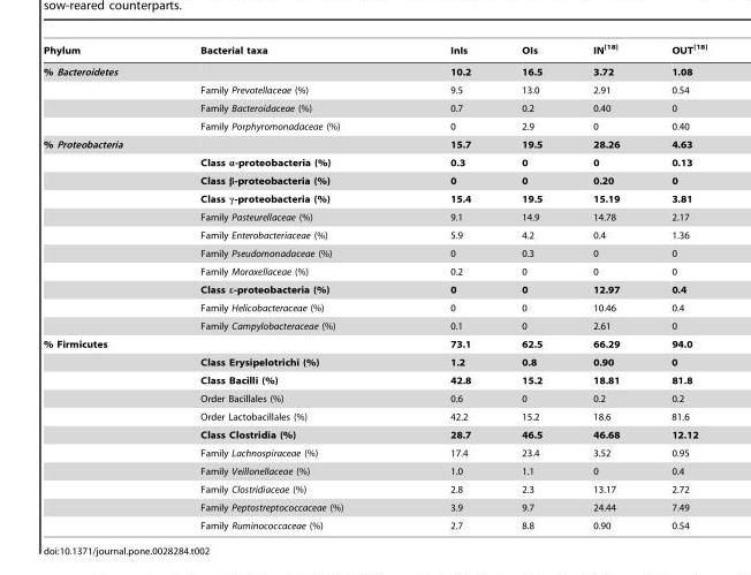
<table><thead><tr><td>Phylum</td><td>Bacterial taxa</td><td>InIs</td><td>OIs</td><td>IN<sup>[18]</sup></td><td>OUT<sup>[18]</sup></td></tr></thead><tbody><tr><td rowspan="4">% Bacteroidetes</td><td></td><td>10.2</td><td>16.5</td><td>3.72</td><td>1.08</td></tr><tr><td>Family Prevotellaceae (%)</td><td>9.5</td><td>13.0</td><td>2.91</td><td>0.54</td></tr><tr><td>Family Bacteroidaceae (%)</td><td>0.7</td><td>0.2</td><td>0.40</td><td>0</td></tr><tr><td>Family Porphyromonadaceae (%)</td><td>0</td><td>2.9</td><td>0</td><td>0.40</td></tr><tr><td rowspan="11">% Proteobacteria</td><td></td><td>15.7</td><td>19.5</td><td>28.26</td><td>4.63</td></tr><tr><td>Class α-proteobacteria (%)</td><td>0.3</td><td>0</td><td>0</td><td>0.13</td></tr><tr><td>Class β-proteobacteria (%)</td><td>0</td><td>0</td><td>0.20</td><td>0</td></tr><tr><td>Class γ-proteobacteria (%)</td><td>15.4</td><td>19.5</td><td>15.19</td><td>3.81</td></tr><tr><td>Family Pasteurellaceae (%)</td><td>9.1</td><td>14.9</td><td>14.78</td><td>2.17</td></tr><tr><td>Family Enterobacteriaceae (%)</td><td>5.9</td><td>4.2</td><td>0.4</td><td>1.36</td></tr><tr><td>Family Pseudomonadaceae (%)</td><td>0</td><td>0.3</td><td>0</td><td>0</td></tr><tr><td>Family Moraxellaceae (%)</td><td>0.2</td><td>0</td><td>0</td><td>0</td></tr><tr><td>Class ε-proteobacteria (%)</td><td>0</td><td>0</td><td>12.97</td><td>0.4</td></tr><tr><td>Family Helicobacteraceae (%)</td><td>0</td><td>0</td><td>10.46</td><td>0.4</td></tr><tr><td>Family Campylobacteraceae (%)</td><td>0.1</td><td>0</td><td>2.61</td><td>0</td></tr><tr><td rowspan="11">% Firmicutes</td><td></td><td>73.1</td><td>62.5</td><td>66.29</td><td>94.0</td></tr><tr><td>Class Erysipelotrichi (%)</td><td>1.2</td><td>0.8</td><td>0.90</td><td>0</td></tr><tr><td>Class Bacilli (%)</td><td>42.8</td><td>15.2</td><td>18.81</td><td>81.8</td></tr><tr><td>Order Bacillales (%)</td><td>0.6</td><td>0</td><td>0.2</td><td>0.2</td></tr><tr><td>Order Lactobacillales (%)</td><td>42.2</td><td>15.2</td><td>18.6</td><td>81.6</td></tr><tr><td>Class Clostridia (%)</td><td>28.7</td><td>46.5</td><td>46.68</td><td>12.12</td></tr><tr><td>Family Lachnospiraceae (%)</td><td>17.4</td><td>23.4</td><td>3.52</td><td>0.95</td></tr><tr><td>Family Veillonellaceae (%)</td><td>1.0</td><td>1.1</td><td>0</td><td>0.4</td></tr><tr><td>Family Clostridiaceae (%)</td><td>2.8</td><td>2.3</td><td>13.17</td><td>2.72</td></tr><tr><td>Family Peptostreptococcaceae (%)</td><td>3.9</td><td>9.7</td><td>24.44</td><td>7.49</td></tr><tr><td>Family Ruminococcaceae (%)</td><td>2.7</td><td>8.8</td><td>0.90</td><td>0.54</td></tr></tbody></table>